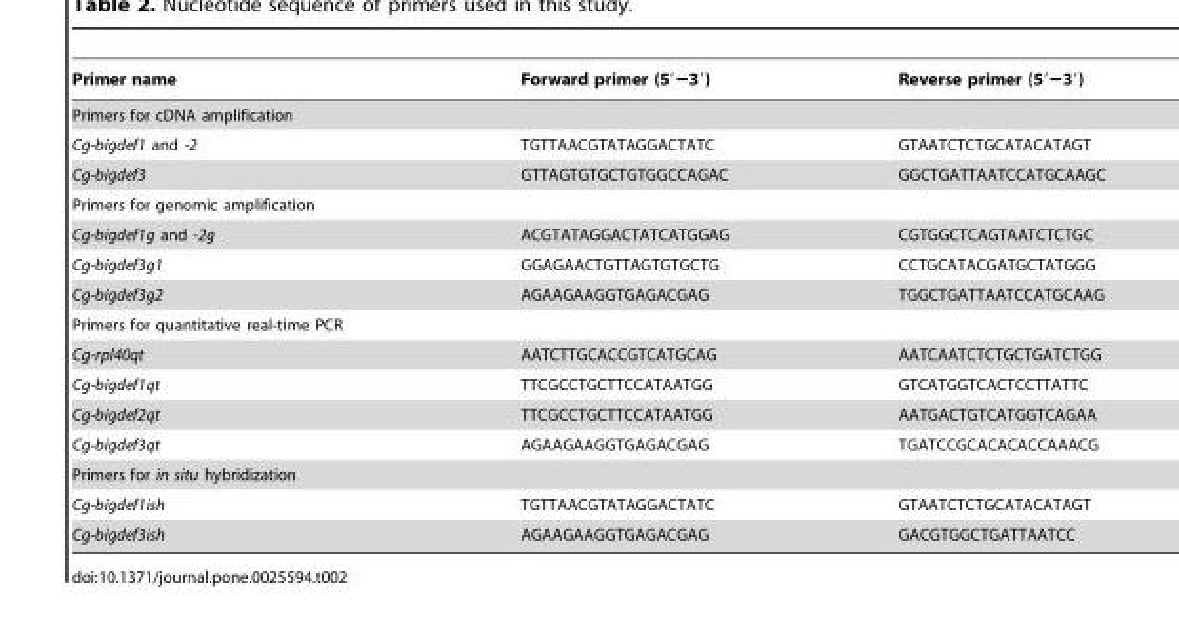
<table><thead><tr><td>Primer name</td><td>Forward primer (592 239)</td><td>Reverse primer (592 239)</td></tr></thead><tbody><tr><td colspan="3">Primers for cDNA amplification</td></tr><tr><td>Cg-bigdef1 and -2</td><td>TGTTAACGTATAGGACTATC</td><td>GTAATCTCTGCATACATAGT</td></tr><tr><td>Cg-bigdef3</td><td>GTTAGTGTGCTGTGGCCAGAC</td><td>GGCTGATTAATCCATGCAAGC</td></tr><tr><td colspan="3">Primers for genomic amplification</td></tr><tr><td>Cg-bigdef1g and -2g</td><td>ACGTATAGGACTATCATGGAG</td><td>CGTGGCTCAGTAATCTCTGC</td></tr><tr><td>Cg-bigdef3g1</td><td>GGAGAACTGTTAGTGTGCTG</td><td>CCTGCATACGATGCTATGGG</td></tr><tr><td>Cg-bigdef3g2</td><td>AGAAGAAGGTGAGACGAG</td><td>TGGCTGATTAATCCATGCAAG</td></tr><tr><td colspan="3">Primers for quantitative real-time PCR</td></tr><tr><td>Cg-rpl40qt</td><td>AATCTTGCACCGTCATGCAG</td><td>AATCAATCTCTGCTGATCTGG</td></tr><tr><td>Cg-bigdef1qt</td><td>TTCGCCTGCTTCCATAATGG</td><td>GTCATGGTCACTCCTTATTC</td></tr><tr><td>Cg-bigdef2qt</td><td>TTCGCCTGCTTCCATAATGG</td><td>AATGACTGTCATGGTCAGAA</td></tr><tr><td>Cg-bigdef3qt</td><td>AGAAGAAGGTGAGACGAG</td><td>TGATCCGCACACACCAAACG</td></tr><tr><td colspan="3">Primers for in situ hybridization</td></tr><tr><td>Cg-bigdef1ish</td><td>TGTTAACGTATAGGACTATC</td><td>GTAATCTCTGCATACATAGT</td></tr><tr><td>Cg-bigdef3ish</td><td>AGAAGAAGGTGAGACGAG</td><td>GACGTGGCTGATTAATCC</td></tr></tbody></table>